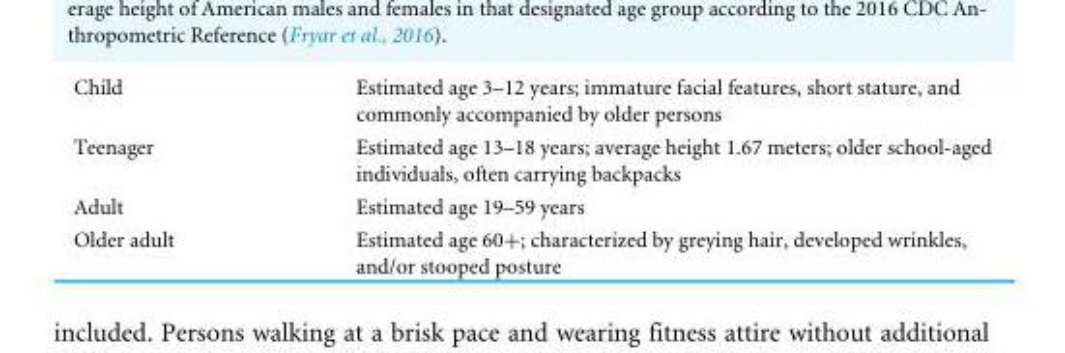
<table><tbody><tr><td>Child</td><td>Estimated age 3–12 years; immature facial features, short stature, and commonly accompanied by older persons</td></tr><tr><td>Teenager</td><td>Estimated age 13–18 years; average height 1.67 meters; older school-aged individuals, often carrying backpacks</td></tr><tr><td>Adult</td><td>Estimated age 19–59 years</td></tr><tr><td>Older adult</td><td>Estimated age 60+; characterized by greying hair, developed wrinkles, and/or stooped posture</td></tr></tbody></table>